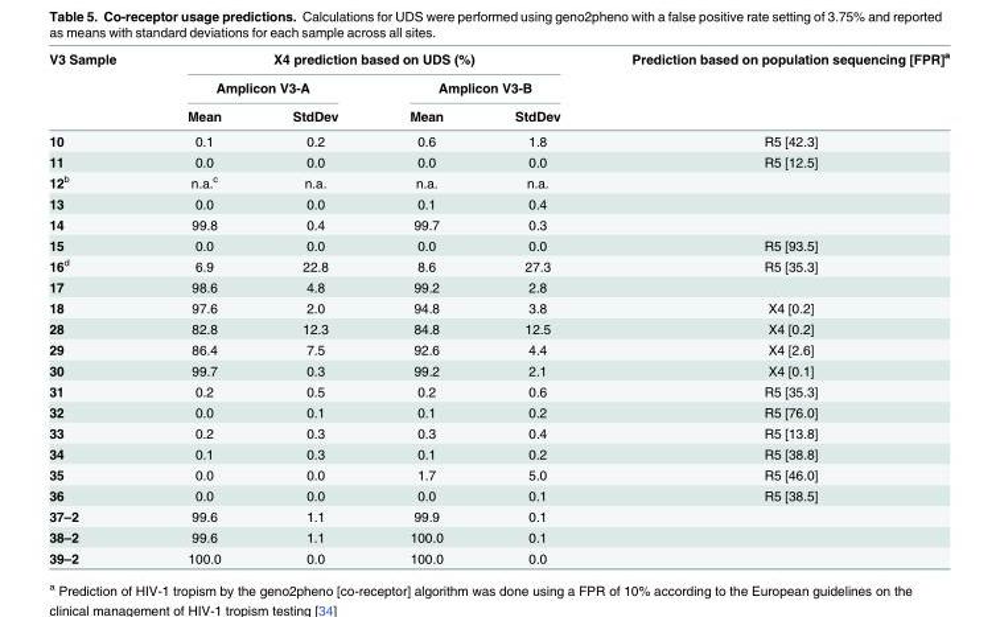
<table><thead><tr><td rowspan="3">V3 Sample</td><td colspan="4">X4 prediction based on UDS (%)</td><td rowspan="3">Prediction based on population sequencing [FPR]<sup>a</sup></td></tr><tr><td colspan="2">Amplicon V3-A</td><td colspan="2">Amplicon V3-B</td></tr><tr><td>Mean</td><td>StdDev</td><td>Mean</td><td>StdDev</td></tr></thead><tbody><tr><td>10</td><td>0.1</td><td>0.2</td><td>0.6</td><td>1.8</td><td>R5 [42.3]</td></tr><tr><td>11</td><td>0.0</td><td>0.0</td><td>0.0</td><td>0.0</td><td>R5 [12.5]</td></tr><tr><td>12<sup>b</sup></td><td>n.a.<sup>c</sup></td><td>n.a.</td><td>n.a.</td><td>n.a.</td><td></td></tr><tr><td>13</td><td>0.0</td><td>0.0</td><td>0.1</td><td>0.4</td><td></td></tr><tr><td>14</td><td>99.8</td><td>0.4</td><td>99.7</td><td>0.3</td><td></td></tr><tr><td>15</td><td>0.0</td><td>0.0</td><td>0.0</td><td>0.0</td><td>R5 [93.5]</td></tr><tr><td>16<sup>d</sup></td><td>6.9</td><td>22.8</td><td>8.6</td><td>27.3</td><td>R5 [35.3]</td></tr><tr><td>17</td><td>98.6</td><td>4.8</td><td>99.2</td><td>2.8</td><td></td></tr><tr><td>18</td><td>97.6</td><td>2.0</td><td>94.8</td><td>3.8</td><td>X4 [0.2]</td></tr><tr><td>28</td><td>82.8</td><td>12.3</td><td>84.8</td><td>12.5</td><td>X4 [0.2]</td></tr><tr><td>29</td><td>86.4</td><td>7.5</td><td>92.6</td><td>4.4</td><td>X4 [2.6]</td></tr><tr><td>30</td><td>99.7</td><td>0.3</td><td>99.2</td><td>2.1</td><td>X4 [0.1]</td></tr><tr><td>31</td><td>0.2</td><td>0.5</td><td>0.2</td><td>0.6</td><td>R5 [35.3]</td></tr><tr><td>32</td><td>0.0</td><td>0.1</td><td>0.1</td><td>0.2</td><td>R5 [76.0]</td></tr><tr><td>33</td><td>0.2</td><td>0.3</td><td>0.3</td><td>0.4</td><td>R5 [13.8]</td></tr><tr><td>34</td><td>0.1</td><td>0.3</td><td>0.1</td><td>0.2</td><td>R5 [38.8]</td></tr><tr><td>35</td><td>0.0</td><td>0.0</td><td>1.7</td><td>5.0</td><td>R5 [46.0]</td></tr><tr><td>36</td><td>0.0</td><td>0.0</td><td>0.0</td><td>0.1</td><td>R5 [38.5]</td></tr><tr><td>37–2</td><td>99.6</td><td>1.1</td><td>99.9</td><td>0.1</td><td></td></tr><tr><td>38–2</td><td>99.6</td><td>1.1</td><td>100.0</td><td>0.1</td><td></td></tr><tr><td>39–2</td><td>100.0</td><td>0.0</td><td>100.0</td><td>0.0</td><td></td></tr></tbody></table>